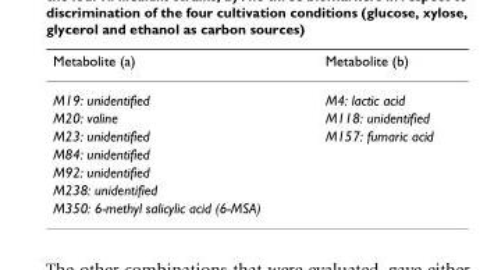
<table><thead><tr><td>Metabolite (a)</td><td>Metabolite (b)</td></tr></thead><tbody><tr><td>M19: unidentified</td><td>M4: lactic acid</td></tr><tr><td>M20: valine</td><td>M118: unidentified</td></tr><tr><td>M23: unidentified</td><td>M157: fumaric acid</td></tr><tr><td colspan="2">M84: unidentified</td></tr><tr><td colspan="2">M92: unidentified</td></tr><tr><td colspan="2">M238: unidentified</td></tr><tr><td>M350: 6-methyl salicylic acid (6-MSA)</td><td></td></tr></tbody></table>